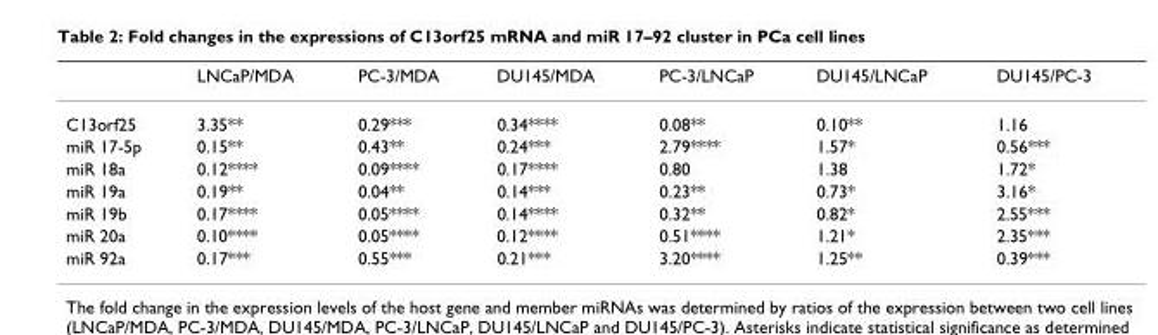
<table><thead><tr><td></td><td>LNCaP/MDA</td><td>PC-3/MDA</td><td>DU145/MDA</td><td>PC-3/LNCaP</td><td>DU145/LNCaP</td><td>DU145/PC-3</td></tr></thead><tbody><tr><td>C13orf25</td><td>3.35**</td><td>0.29***</td><td>0.34****</td><td>0.08**</td><td>0.10**</td><td>1.16</td></tr><tr><td>miR 17-5p</td><td>0.15**</td><td>0.43**</td><td>0.24***</td><td>2.79****</td><td>1.57*</td><td>0.56***</td></tr><tr><td>miR 18a</td><td>0.12****</td><td>0.09****</td><td>0.17****</td><td>0.80</td><td>1.38</td><td>1.72*</td></tr><tr><td>miR 19a</td><td>0.19**</td><td>0.04**</td><td>0.14***</td><td>0.23**</td><td>0.73*</td><td>3.16*</td></tr><tr><td>miR 19b</td><td>0.17****</td><td>0.05****</td><td>0.14****</td><td>0.32**</td><td>0.82*</td><td>2.55***</td></tr><tr><td>miR 20a</td><td>0.10****</td><td>0.05****</td><td>0.12****</td><td>0.51****</td><td>1.21*</td><td>2.35***</td></tr><tr><td>miR 92a</td><td>0.17***</td><td>0.55***</td><td>0.21***</td><td>3.20****</td><td>1.25**</td><td>0.39***</td></tr></tbody></table>